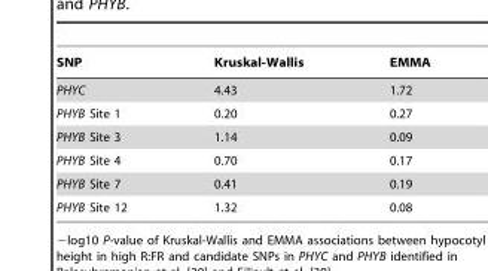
<table><thead><tr><td>SNP</td><td>Kruskal-Wallis</td><td>EMMA</td></tr></thead><tbody><tr><td>PHYC</td><td>4.43</td><td>1.72</td></tr><tr><td>PHYB Site 1</td><td>0.20</td><td>0.27</td></tr><tr><td>PHYB Site 3</td><td>1.14</td><td>0.09</td></tr><tr><td>PHYB Site 4</td><td>0.70</td><td>0.17</td></tr><tr><td>PHYB Site 7</td><td>0.41</td><td>0.19</td></tr><tr><td>PHYB Site 12</td><td>1.32</td><td>0.08</td></tr></tbody></table>